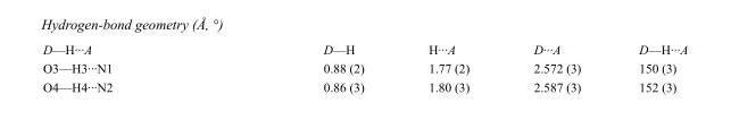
<table><tbody><tr><td>D—H···A</td><td>D—H</td><td>H···A</td><td>D···A</td><td>D—H···A</td></tr><tr><td>O3—H3···N1</td><td>0.88 (2)</td><td>1.77 (2)</td><td>2.572 (3)</td><td>150 (3)</td></tr><tr><td>O4—H4···N2</td><td>0.86 (3)</td><td>1.80 (3)</td><td>2.587 (3)</td><td>152 (3)</td></tr></tbody></table>